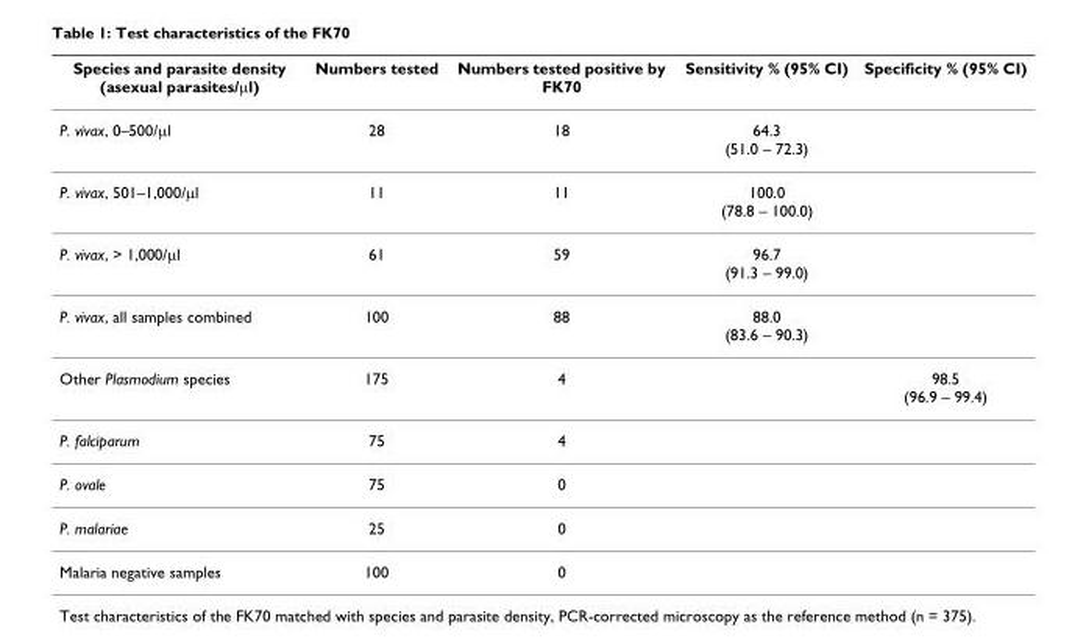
<table><thead><tr><td>Species and parasite density (asexual parasites/μl)</td><td>Numbers tested</td><td>Numbers tested positive by FK70</td><td>Sensitivity % (95% CI)</td><td>Specificity % (95% CI)</td></tr></thead><tbody><tr><td>P. vivax, 0–500/μl</td><td>28</td><td>18</td><td>64.3 (51.0 – 72.3)</td><td></td></tr><tr><td>P. vivax, 501–1,000/μl</td><td>11</td><td>11</td><td>100.0 (78.8 – 100.0)</td><td></td></tr><tr><td>P. vivax, &gt; 1,000/μl</td><td>61</td><td>59</td><td>96.7 (91.3 – 99.0)</td><td></td></tr><tr><td>P. vivax, all samples combined</td><td>100</td><td>88</td><td>88.0 (83.6 – 90.3)</td><td></td></tr><tr><td>Other Plasmodium species</td><td>175</td><td>4</td><td></td><td>98.5 (96.9 – 99.4)</td></tr><tr><td>P. falciparum</td><td>75</td><td>4</td><td></td><td></td></tr><tr><td>P. ovale</td><td>75</td><td>0</td><td></td><td></td></tr><tr><td>P. malariae</td><td>25</td><td>0</td><td></td><td></td></tr><tr><td>Malaria negative samples</td><td>100</td><td>0</td><td></td><td></td></tr></tbody></table>